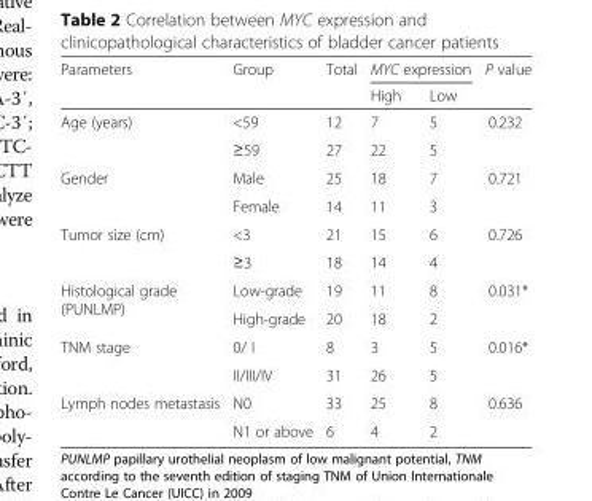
<table><thead><tr><td rowspan="2">Parameters</td><td rowspan="2">Group</td><td rowspan="2">Total</td><td colspan="2">MYC expression</td><td rowspan="2">P value</td></tr><tr><td>High</td><td>Low</td></tr></thead><tbody><tr><td rowspan="2">Age (years)</td><td>&lt;59</td><td>12</td><td>7</td><td>5</td><td rowspan="2">0.232</td></tr><tr><td>≥59</td><td>27</td><td>22</td><td>5</td></tr><tr><td rowspan="2">Gender</td><td>Male</td><td>25</td><td>18</td><td>7</td><td rowspan="2">0.721</td></tr><tr><td>Female</td><td>14</td><td>11</td><td>3</td></tr><tr><td rowspan="2">Tumor size (cm)</td><td>&lt;3</td><td>21</td><td>15</td><td>6</td><td rowspan="2">0.726</td></tr><tr><td>≥3</td><td>18</td><td>14</td><td>4</td></tr><tr><td rowspan="2">Histological grade (PUNLMP)</td><td>Low-grade</td><td>19</td><td>11</td><td>8</td><td rowspan="2">0.031*</td></tr><tr><td>High-grade</td><td>20</td><td>18</td><td>2</td></tr><tr><td rowspan="2">TNM stage</td><td>0/ I</td><td>8</td><td>3</td><td>5</td><td rowspan="2">0.016*</td></tr><tr><td>II/III/IV</td><td>31</td><td>26</td><td>5</td></tr><tr><td rowspan="2">Lymph nodes metastasis</td><td>N0</td><td>33</td><td>25</td><td>8</td><td rowspan="2">0.636</td></tr><tr><td>N1 or above</td><td>6</td><td>4</td><td>2</td></tr></tbody></table>